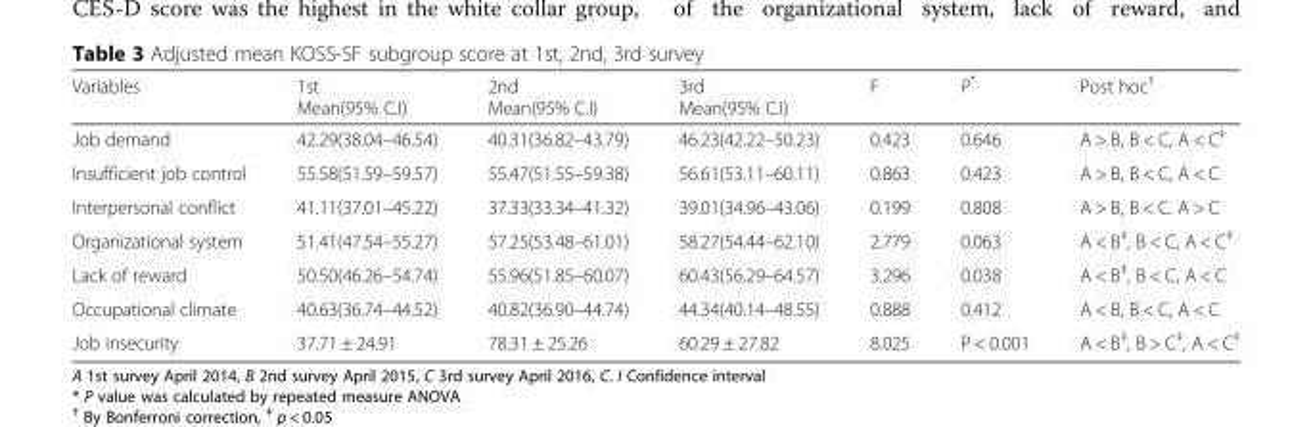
<table><thead><tr><td>Variables</td><td>1st Mean(95% C.I)</td><td>2nd Mean(95% C.I)</td><td>3rd Mean(95% C.I)</td><td>F</td><td>P*</td><td>Post hoc<sup>†</sup></td></tr></thead><tbody><tr><td>Job demand</td><td>42.29(38.04–46.54)</td><td>40.31(36.82–43.79)</td><td>46.23(42.22–50.23)</td><td>0.423</td><td>0.646</td><td>A &gt; B, B &lt; C, A &lt; C<sup>‡</sup></td></tr><tr><td>Insufficient job control</td><td>55.58(51.59–59.57)</td><td>55.47(51.55–59.38)</td><td>56.61(53.11–60.11)</td><td>0.863</td><td>0.423</td><td>A &gt; B, B &lt; C, A &lt; C</td></tr><tr><td>Interpersonal conflict</td><td>41.11(37.01–45.22)</td><td>37.33(33.34–41.32)</td><td>39.01(34.96–43.06)</td><td>0.199</td><td>0.808</td><td>A &gt; B, B &lt; C. A &gt; C</td></tr><tr><td>Organizational system</td><td>51.41(47.54–55.27)</td><td>57.25(53.48–61.01)</td><td>58.27(54.44–62.10)</td><td>2.779</td><td>0.063</td><td>A &lt; B<sup>‡</sup>, B &lt; C, A &lt; C<sup>‡</sup></td></tr><tr><td>Lack of reward</td><td>50.50(46.26–54.74)</td><td>55.96(51.85–60.07)</td><td>60.43(56.29–64.57)</td><td>3.296</td><td>0.038</td><td>A &lt; B<sup>‡</sup>, B &lt; C, A &lt; C</td></tr><tr><td>Occupational climate</td><td>40.63(36.74–44.52)</td><td>40.82(36.90–44.74)</td><td>44.34(40.14–48.55)</td><td>0.888</td><td>0.412</td><td>A &lt; B, B &lt; C, A &lt; C</td></tr><tr><td>Job insecurity</td><td>37.71 ± 24.91</td><td>78.31 ± 25.26</td><td>60.29 ± 27.82</td><td>8.025</td><td>P &lt; 0.001</td><td>A &lt; B<sup>‡</sup>, B &gt; C<sup>‡</sup>, A &lt; C<sup>‡</sup></td></tr></tbody></table>